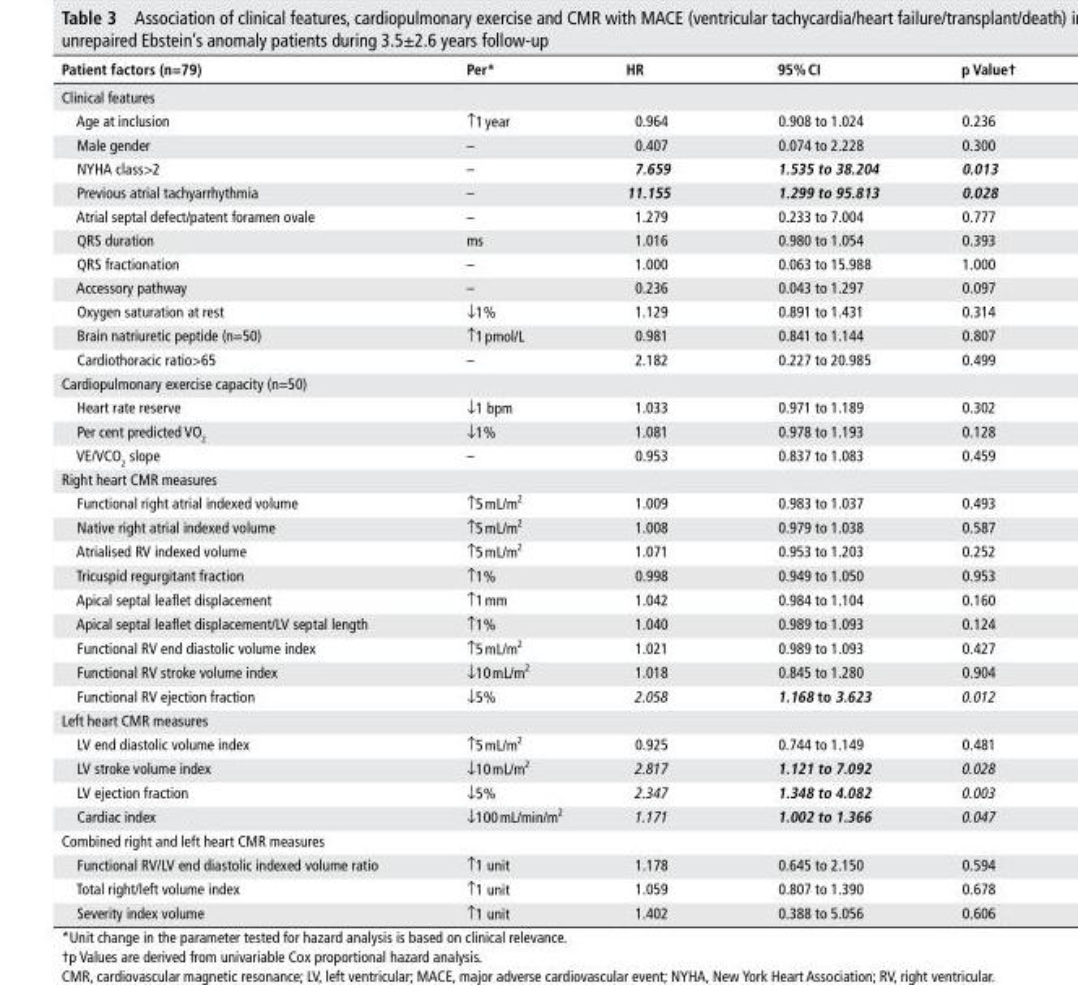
<table><thead><tr><td>Patient factors (n=79)</td><td>Per*</td><td>hr</td><td>95% cI</td><td>p Value†</td></tr></thead><tbody><tr><td colspan="5">Clinical features</td></tr><tr><td>Age at inclusion</td><td>↑1 year</td><td>0.964</td><td>0.908 to 1.024</td><td>0.236</td></tr><tr><td>Male gender</td><td>–</td><td>0.407</td><td>0.074 to 2.228</td><td>0.300</td></tr><tr><td>NYHA class&gt;2</td><td>–</td><td>7.659</td><td>1.535 to 38.204</td><td>0.013</td></tr><tr><td>Previous atrial tachyarrhythmia</td><td>–</td><td>11.155</td><td>1.299 to 95.813</td><td>0.028</td></tr><tr><td>Atrial septal defect/patent foramen ovale</td><td>–</td><td>1.279</td><td>0.233 to 7.004</td><td>0.777</td></tr><tr><td>QRS duration</td><td>ms</td><td>1.016</td><td>0.980 to 1.054</td><td>0.393</td></tr><tr><td>QRS fractionation</td><td>–</td><td>1.000</td><td>0.063 to 15.988</td><td>1.000</td></tr><tr><td>Accessory pathway</td><td>–</td><td>0.236</td><td>0.043 to 1.297</td><td>0.097</td></tr><tr><td>Oxygen saturation at rest</td><td>↓1%</td><td>1.129</td><td>0.891 to 1.431</td><td>0.314</td></tr><tr><td>Brain natriuretic peptide (n=50)</td><td>↑1 pmol/L</td><td>0.981</td><td>0.841 to 1.144</td><td>0.807</td></tr><tr><td>Cardiothoracic ratio&gt;65</td><td>–</td><td>2.182</td><td>0.227 to 20.985</td><td>0.499</td></tr><tr><td colspan="5">Cardiopulmonary exercise capacity (n=50)</td></tr><tr><td>Heart rate reserve</td><td>↓1 bpm</td><td>1.033</td><td>0.971 to 1.189</td><td>0.302</td></tr><tr><td>Per cent predicted VO<sub>2</sub></td><td>↓1%</td><td>1.081</td><td>0.978 to 1.193</td><td>0.128</td></tr><tr><td>VE/VCO<sub>2</sub> slope</td><td>–</td><td>0.953</td><td>0.837 to 1.083</td><td>0.459</td></tr><tr><td colspan="5">Right heart CMR measures</td></tr><tr><td>Functional right atrial indexed volume</td><td>↑5 mL/m<sup>2</sup></td><td>1.009</td><td>0.983 to 1.037</td><td>0.493</td></tr><tr><td>Native right atrial indexed volume</td><td>↑5 mL/m<sup>2</sup></td><td>1.008</td><td>0.979 to 1.038</td><td>0.587</td></tr><tr><td>Atrialised RV indexed volume</td><td>↑5 mL/m<sup>2</sup></td><td>1.071</td><td>0.953 to 1.203</td><td>0.252</td></tr><tr><td>Tricuspid regurgitant fraction</td><td>↑1%</td><td>0.998</td><td>0.949 to 1.050</td><td>0.953</td></tr><tr><td>Apical septal leaflet displacement</td><td>↑1 mm</td><td>1.042</td><td>0.984 to 1.104</td><td>0.160</td></tr><tr><td>Apical septal leaflet displacement/LV septal length</td><td>↑1%</td><td>1.040</td><td>0.989 to 1.093</td><td>0.124</td></tr><tr><td>Functional RV end diastolic volume index</td><td>↑5 mL/m<sup>2</sup></td><td>1.021</td><td>0.989 to 1.093</td><td>0.427</td></tr><tr><td>Functional RV stroke volume index</td><td>↓10 mL/m<sup>2</sup></td><td>1.018</td><td>0.845 to 1.280</td><td>0.904</td></tr><tr><td>Functional RV ejection fraction</td><td>↓5%</td><td>2.058</td><td>1.168 to 3.623</td><td>0.012</td></tr><tr><td colspan="5">Left heart CMR measures</td></tr><tr><td>LV end diastolic volume index</td><td>↑5 mL/m<sup>2</sup></td><td>0.925</td><td>0.744 to 1.149</td><td>0.481</td></tr><tr><td>LV stroke volume index</td><td>↓10 mL/m<sup>2</sup></td><td>2.817</td><td>1.121 to 7.092</td><td>0.028</td></tr><tr><td>LV ejection fraction</td><td>↓5%</td><td>2.347</td><td>1.348 to 4.082</td><td>0.003</td></tr><tr><td>Cardiac index</td><td>↓100 mL/min/m<sup>2</sup></td><td>1.171</td><td>1.002 to 1.366</td><td>0.047</td></tr><tr><td colspan="5">Combined right and left heart CMR measures</td></tr><tr><td>Functional RV/LV end diastolic indexed volume ratio</td><td>↑1 unit</td><td>1.178</td><td>0.645 to 2.150</td><td>0.594</td></tr><tr><td>Total right/left volume index</td><td>↑1 unit</td><td>1.059</td><td>0.807 to 1.390</td><td>0.678</td></tr><tr><td>Severity index volume</td><td>↑1 unit</td><td>1.402</td><td>0.388 to 5.056</td><td>0.606</td></tr></tbody></table>